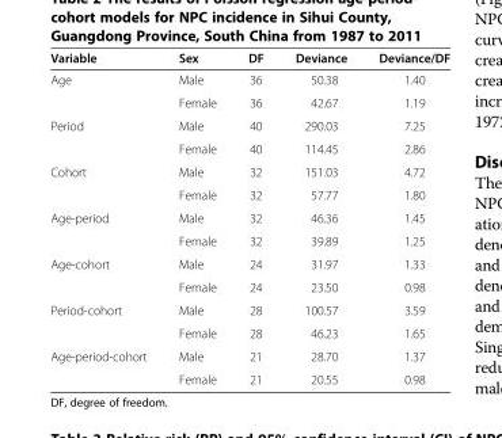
<table><thead><tr><td>Variable</td><td>Sex</td><td>DF</td><td>Deviance</td><td>Deviance/DF</td></tr></thead><tbody><tr><td rowspan="2">Age</td><td>Male</td><td>36</td><td>50.38</td><td>1.40</td></tr><tr><td>Female</td><td>36</td><td>42.67</td><td>1.19</td></tr><tr><td rowspan="2">Period</td><td>Male</td><td>40</td><td>290.03</td><td>7.25</td></tr><tr><td>Female</td><td>40</td><td>114.45</td><td>2.86</td></tr><tr><td rowspan="2">Cohort</td><td>Male</td><td>32</td><td>151.03</td><td>4.72</td></tr><tr><td>Female</td><td>32</td><td>57.77</td><td>1.80</td></tr><tr><td rowspan="2">Age-period</td><td>Male</td><td>32</td><td>46.36</td><td>1.45</td></tr><tr><td>Female</td><td>32</td><td>39.89</td><td>1.25</td></tr><tr><td rowspan="2">Age-cohort</td><td>Male</td><td>24</td><td>31.97</td><td>1.33</td></tr><tr><td>Female</td><td>24</td><td>23.50</td><td>0.98</td></tr><tr><td rowspan="2">Period-cohort</td><td>Male</td><td>28</td><td>100.57</td><td>3.59</td></tr><tr><td>Female</td><td>28</td><td>46.23</td><td>1.65</td></tr><tr><td rowspan="2">Age-period-cohort</td><td>Male</td><td>21</td><td>28.70</td><td>1.37</td></tr><tr><td>Female</td><td>21</td><td>20.55</td><td>0.98</td></tr></tbody></table>